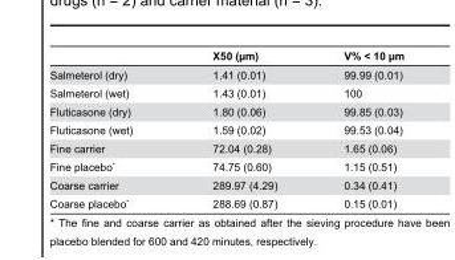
<table><thead><tr><td></td><td>X50 (µm)</td><td>V% &lt; 10 µm</td></tr></thead><tbody><tr><td>Salmeterol (dry)</td><td>1.41 (0.01)</td><td>99.99 (0.01)</td></tr><tr><td>Salmeterol (wet)</td><td>1.43 (0.01)</td><td>100</td></tr><tr><td>Fluticasone (dry)</td><td>1.80 (0.06)</td><td>99.85 (0.03)</td></tr><tr><td>Fluticasone (wet)</td><td>1.59 (0.02)</td><td>99.53 (0.04)</td></tr><tr><td>Fine carrier</td><td>72.04 (0.28)</td><td>1.65 (0.06)</td></tr><tr><td>Fine placebo*</td><td>74.75 (0.60)</td><td>1.15 (0.51)</td></tr><tr><td>Coarse carrier</td><td>289.97 (4.29)</td><td>0.34 (0.41)</td></tr><tr><td>Coarse placebo*</td><td>288.69 (0.87)</td><td>0.15 (0.01)</td></tr></tbody></table>